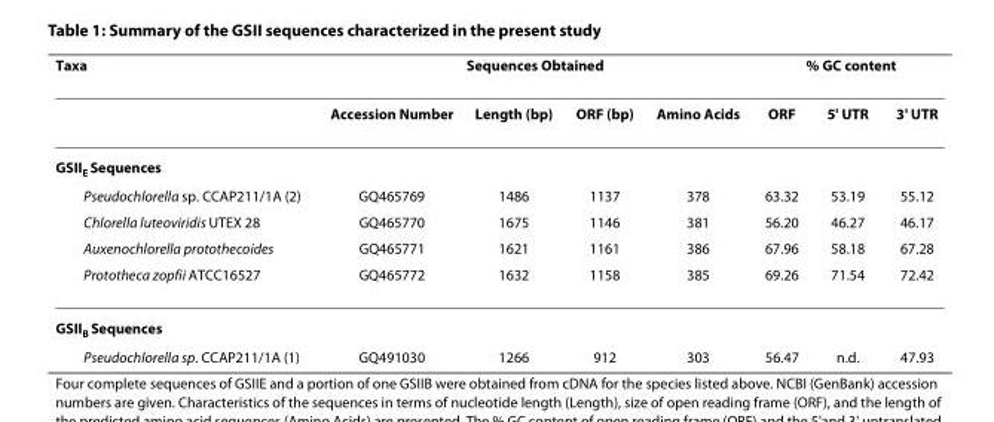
<table><thead><tr><td rowspan="2">Taxa</td><td colspan="4">Sequences Obtained</td><td colspan="3">% GC content</td></tr><tr><td>Accession Number</td><td>Length (bp)</td><td>ORF (bp)</td><td>Amino Acids</td><td>ORF</td><td>5&#x27; UTR</td><td>3&#x27; UTR</td></tr></thead><tbody><tr><td colspan="8">GSII<sub>E</sub> Sequences</td></tr><tr><td>Pseudochlorella sp. CCAP211/1A (2)</td><td>GQ465769</td><td>1486</td><td>1137</td><td>378</td><td>63.32</td><td>53.19</td><td>55.12</td></tr><tr><td>Chlorella luteoviridis UTEX 28</td><td>GQ465770</td><td>1675</td><td>1146</td><td>381</td><td>56.20</td><td>46.27</td><td>46.17</td></tr><tr><td>Auxenochlorella protothecoides</td><td>GQ465771</td><td>1621</td><td>1161</td><td>386</td><td>67.96</td><td>58.18</td><td>67.28</td></tr><tr><td>Prototheca zopfii ATCC16527</td><td>GQ465772</td><td>1632</td><td>1158</td><td>385</td><td>69.26</td><td>71.54</td><td>72.42</td></tr><tr><td colspan="8">GSII<sub>B</sub> Sequences</td></tr><tr><td>Pseudochlorella sp. CCAP211/1A (1)</td><td>GQ491030</td><td>1266</td><td>912</td><td>303</td><td>56.47</td><td>n.d.</td><td>47.93</td></tr></tbody></table>